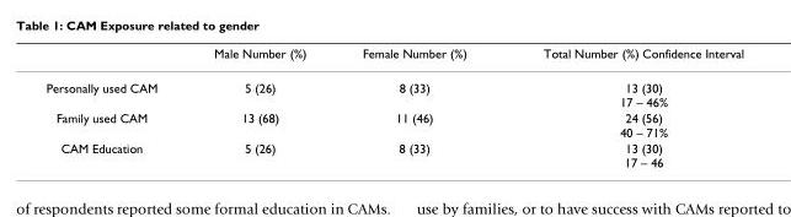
<table><thead><tr><td></td><td>Male Number (%)</td><td>Female Number (%)</td><td>Total Number (%) Confidence Interval</td></tr></thead><tbody><tr><td>Personally used CAM</td><td>5 (26)</td><td>8 (33)</td><td>13 (30) 17 – 46%</td></tr><tr><td>Family used CAM</td><td>13 (68)</td><td>11 (46)</td><td>24 (56) 40 – 71%</td></tr><tr><td>CAM Education</td><td>5 (26)</td><td>8 (33)</td><td>13 (30) 17 – 46</td></tr></tbody></table>